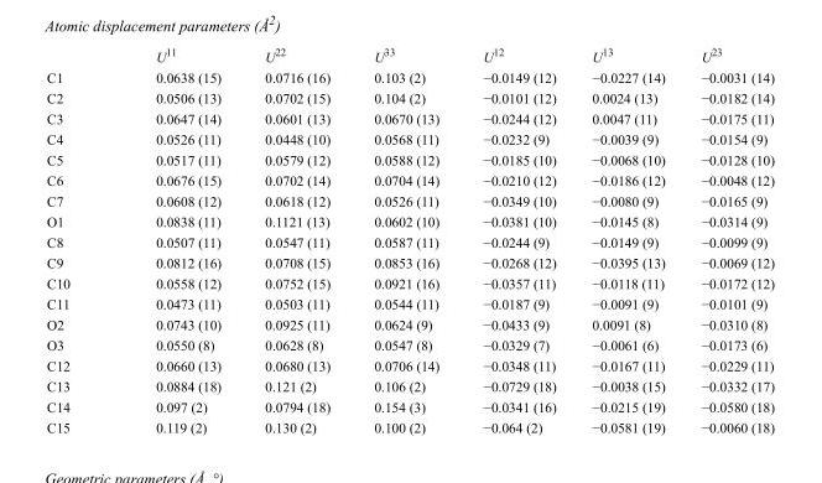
<table><thead><tr><td></td><td>U<sup>11</sup></td><td>U<sup>22</sup></td><td>U<sup>33</sup></td><td>U<sup>12</sup></td><td>U<sup>13</sup></td><td>U<sup>23</sup></td></tr></thead><tbody><tr><td>C1</td><td>0.0638 (15)</td><td>0.0716 (16)</td><td>0.103 (2)</td><td>−0.0149 (12)</td><td>−0.0227 (14)</td><td>−0.0031 (14)</td></tr><tr><td>C2</td><td>0.0506 (13)</td><td>0.0702 (15)</td><td>0.104 (2)</td><td>−0.0101 (12)</td><td>0.0024 (13)</td><td>−0.0182 (14)</td></tr><tr><td>C3</td><td>0.0647 (14)</td><td>0.0601 (13)</td><td>0.0670 (13)</td><td>−0.0244 (12)</td><td>0.0047 (11)</td><td>−0.0175 (11)</td></tr><tr><td>C4</td><td>0.0526 (11)</td><td>0.0448 (10)</td><td>0.0568 (11)</td><td>−0.0232 (9)</td><td>−0.0039 (9)</td><td>−0.0154 (9)</td></tr><tr><td>C5</td><td>0.0517 (11)</td><td>0.0579 (12)</td><td>0.0588 (12)</td><td>−0.0185 (10)</td><td>−0.0068 (10)</td><td>−0.0128 (10)</td></tr><tr><td>C6</td><td>0.0676 (15)</td><td>0.0702 (14)</td><td>0.0704 (14)</td><td>−0.0210 (12)</td><td>−0.0186 (12)</td><td>−0.0048 (12)</td></tr><tr><td>C7</td><td>0.0608 (12)</td><td>0.0618 (12)</td><td>0.0526 (11)</td><td>−0.0349 (10)</td><td>−0.0080 (9)</td><td>−0.0165 (9)</td></tr><tr><td>O1</td><td>0.0838 (11)</td><td>0.1121 (13)</td><td>0.0602 (10)</td><td>−0.0381 (10)</td><td>−0.0145 (8)</td><td>−0.0314 (9)</td></tr><tr><td>C8</td><td>0.0507 (11)</td><td>0.0547 (11)</td><td>0.0587 (11)</td><td>−0.0244 (9)</td><td>−0.0149 (9)</td><td>−0.0099 (9)</td></tr><tr><td>C9</td><td>0.0812 (16)</td><td>0.0708 (15)</td><td>0.0853 (16)</td><td>−0.0268 (12)</td><td>−0.0395 (13)</td><td>−0.0069 (12)</td></tr><tr><td>C10</td><td>0.0558 (12)</td><td>0.0752 (15)</td><td>0.0921 (16)</td><td>−0.0357 (11)</td><td>−0.0118 (11)</td><td>−0.0172 (12)</td></tr><tr><td>C11</td><td>0.0473 (11)</td><td>0.0503 (11)</td><td>0.0544 (11)</td><td>−0.0187 (9)</td><td>−0.0091 (9)</td><td>−0.0101 (9)</td></tr><tr><td>O2</td><td>0.0743 (10)</td><td>0.0925 (11)</td><td>0.0624 (9)</td><td>−0.0433 (9)</td><td>0.0091 (8)</td><td>−0.0310 (8)</td></tr><tr><td>O3</td><td>0.0550 (8)</td><td>0.0628 (8)</td><td>0.0547 (8)</td><td>−0.0329 (7)</td><td>−0.0061 (6)</td><td>−0.0173 (6)</td></tr><tr><td>C12</td><td>0.0660 (13)</td><td>0.0680 (13)</td><td>0.0706 (14)</td><td>−0.0348 (11)</td><td>−0.0167 (11)</td><td>−0.0229 (11)</td></tr><tr><td>C13</td><td>0.0884 (18)</td><td>0.121 (2)</td><td>0.106 (2)</td><td>−0.0729 (18)</td><td>−0.0038 (15)</td><td>−0.0332 (17)</td></tr><tr><td>C14</td><td>0.097 (2)</td><td>0.0794 (18)</td><td>0.154 (3)</td><td>−0.0341 (16)</td><td>−0.0215 (19)</td><td>−0.0580 (18)</td></tr><tr><td>C15</td><td>0.119 (2)</td><td>0.130 (2)</td><td>0.100 (2)</td><td>−0.064 (2)</td><td>−0.0581 (19)</td><td>−0.0060 (18)</td></tr></tbody></table>